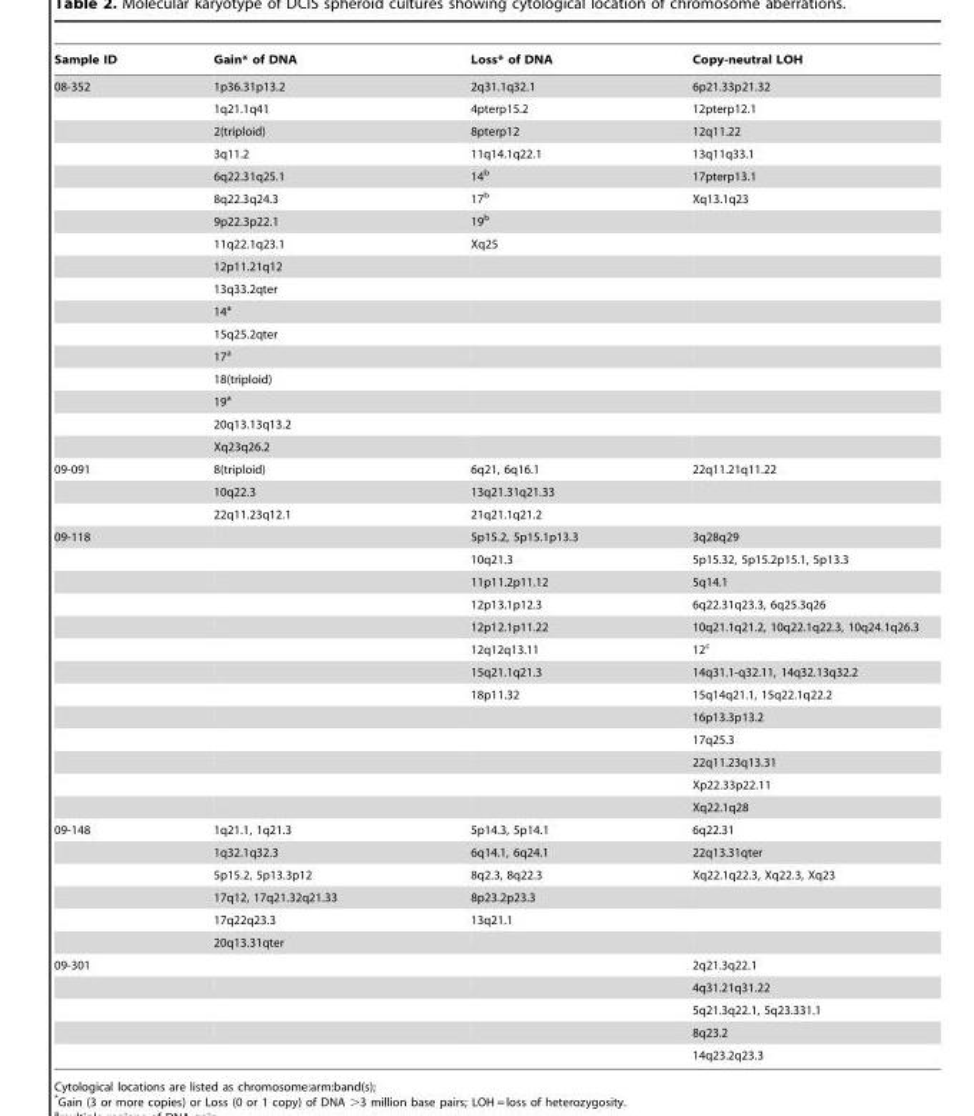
<table><thead><tr><td>Sample ID</td><td>Gain* of DNA</td><td>Loss* of DNA</td><td>Copy-neutral LOH</td></tr></thead><tbody><tr><td rowspan="17">08-352</td><td>1p36.31p13.2</td><td>2q31.1q32.1</td><td>6p21.33p21.32</td></tr><tr><td>1q21.1q41</td><td>4pterp15.2</td><td>12pterp12.1</td></tr><tr><td>2(triploid)</td><td>8pterp12</td><td>12q11.22</td></tr><tr><td>3q11.2</td><td>11q14.1q22.1</td><td>13q11q33.1</td></tr><tr><td>6q22.31q25.1</td><td>14<sup>b</sup></td><td>17pterp13.1</td></tr><tr><td>8q22.3q24.3</td><td>17<sup>b</sup></td><td>Xq13.1q23</td></tr><tr><td>9p22.3p22.1</td><td>19<sup>b</sup></td><td></td></tr><tr><td>11q22.1q23.1</td><td>Xq25</td><td></td></tr><tr><td>12p11.21q12</td><td></td><td></td></tr><tr><td>13q33.2qter</td><td></td><td></td></tr><tr><td>14<sup>a</sup></td><td></td><td></td></tr><tr><td>15q25.2qter</td><td></td><td></td></tr><tr><td>17<sup>a</sup></td><td></td><td></td></tr><tr><td>18(triploid)</td><td></td><td></td></tr><tr><td>19<sup>a</sup></td><td></td><td></td></tr><tr><td>20q13.13q13.2</td><td></td><td></td></tr><tr><td>Xq23q26.2</td><td></td><td></td></tr><tr><td rowspan="3">09-091</td><td>8(triploid)</td><td>6q21, 6q16.1</td><td>22q11.21q11.22</td></tr><tr><td>10q22.3</td><td>13q21.31q21.33</td><td></td></tr><tr><td>22q11.23q12.1</td><td>21q21.1q21.2</td><td></td></tr><tr><td rowspan="13">09-118</td><td></td><td>5p15.2, 5p15.1p13.3</td><td>3q28q29</td></tr><tr><td></td><td>10q21.3</td><td>5p15.32, 5p15.2p15.1, 5p13.3</td></tr><tr><td></td><td>11p11.2p11.12</td><td>5q14.1</td></tr><tr><td></td><td>12p13.1p12.3</td><td>6q22.31q23.3, 6q25.3q26</td></tr><tr><td></td><td>12p12.1p11.22</td><td>10q21.1q21.2, 10q22.1q22.3, 10q24.1q26.3</td></tr><tr><td></td><td>12q12q13.11</td><td>12<sup>c</sup></td></tr><tr><td></td><td>15q21.1q21.3</td><td>14q31.1-q32.11, 14q32.13q32.2</td></tr><tr><td></td><td>18p11.32</td><td>15q14q21.1, 15q22.1q22.2</td></tr><tr><td></td><td></td><td>16p13.3p13.2</td></tr><tr><td></td><td></td><td>17q25.3</td></tr><tr><td></td><td></td><td>22q11.23q13.31</td></tr><tr><td></td><td></td><td>Xp22.33p22.11</td></tr><tr><td></td><td></td><td>Xq22.1q28</td></tr><tr><td rowspan="6">09-148</td><td>1q21.1, 1q21.3</td><td>5p14.3, 5p14.1</td><td>6q22.31</td></tr><tr><td>1q32.1q32.3</td><td>6q14.1, 6q24.1</td><td>22q13.31qter</td></tr><tr><td>5p15.2, 5p13.3p12</td><td>8q2.3, 8q22.3</td><td>Xq22.1q22.3, Xq22.3, Xq23</td></tr><tr><td>17q12, 17q21.32q21.33</td><td>8p23.2p23.3</td><td></td></tr><tr><td>17q22q23.3</td><td>13q21.1</td><td></td></tr><tr><td>20q13.31qter</td><td></td><td></td></tr><tr><td rowspan="5">09-301</td><td></td><td></td><td>2q21.3q22.1</td></tr><tr><td></td><td></td><td>4q31.21q31.22</td></tr><tr><td></td><td></td><td>5q21.3q22.1, 5q23.331.1</td></tr><tr><td></td><td></td><td>8q23.2</td></tr><tr><td></td><td></td><td>14q23.2q23.3</td></tr></tbody></table>